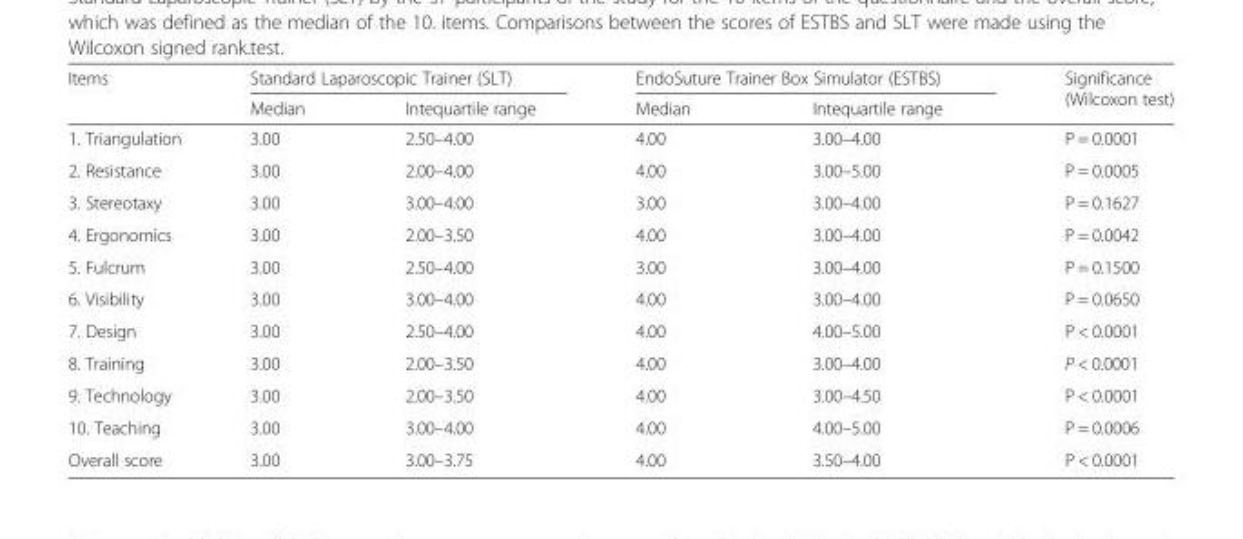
<table><thead><tr><td rowspan="2">Items</td><td colspan="2">Standard Laparoscopic Trainer (SLT)</td><td colspan="2">EndoSuture Trainer Box Simulator (ESTBS)</td><td rowspan="2">Significance (Wilcoxon test)</td></tr><tr><td>Median</td><td>Intequartile range</td><td>Median</td><td>Intequartile range</td></tr></thead><tbody><tr><td>1. Triangulation</td><td>3.00</td><td>2.50–4.00</td><td>4.00</td><td>3.00–4.00</td><td>P = 0.0001</td></tr><tr><td>2. Resistance</td><td>3.00</td><td>2.00–4.00</td><td>4.00</td><td>3.00–5.00</td><td>P = 0.0005</td></tr><tr><td>3. Stereotaxy</td><td>3.00</td><td>3.00–4.00</td><td>3.00</td><td>3.00–4.00</td><td>P = 0.1627</td></tr><tr><td>4. Ergonomics</td><td>3.00</td><td>2.00–3.50</td><td>4.00</td><td>3.00–4.00</td><td>P = 0.0042</td></tr><tr><td>5. Fulcrum</td><td>3.00</td><td>2.50–4.00</td><td>3.00</td><td>3.00–4.00</td><td>P = 0.1500</td></tr><tr><td>6. Visibility</td><td>3.00</td><td>3.00–4.00</td><td>4.00</td><td>3.00–4.00</td><td>P = 0.0650</td></tr><tr><td>7. Design</td><td>3.00</td><td>2.50–4.00</td><td>4.00</td><td>4.00–5.00</td><td>P &lt; 0.0001</td></tr><tr><td>8. Training</td><td>3.00</td><td>2.00–3.50</td><td>4.00</td><td>3.00–4.00</td><td>P &lt; 0.0001</td></tr><tr><td>9. Technology</td><td>3.00</td><td>2.00–3.50</td><td>4.00</td><td>3.00–4.50</td><td>P &lt; 0.0001</td></tr><tr><td>10. Teaching</td><td>3.00</td><td>3.00–4.00</td><td>4.00</td><td>4.00–5.00</td><td>P = 0.0006</td></tr><tr><td>Overall score</td><td>3.00</td><td>3.00–3.75</td><td>4.00</td><td>3.50–4.00</td><td>P &lt; 0.0001</td></tr></tbody></table>